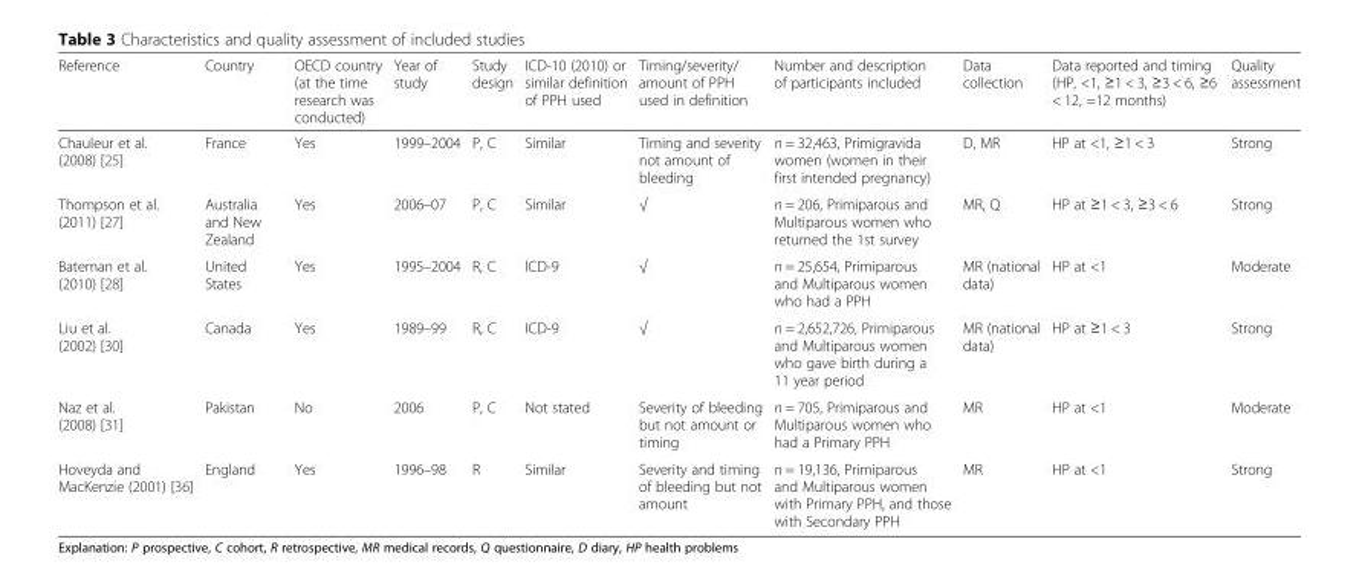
<table><thead><tr><td>Reference</td><td>Country</td><td>OECD country (at the time research was conducted)</td><td>Year of study</td><td>Study design</td><td>ICD-10 (2010) or similar definition of PPH used</td><td>Timing/severity/ amount of PPH used in definition</td><td>Number and description of participants included</td><td>Data collection</td><td>Data reported and timing (HP, &lt;1, ≥1 &lt; 3, ≥3 &lt; 6, ≥6 &lt; 12, =12 months)</td><td>Quality assessment</td></tr></thead><tbody><tr><td>Chauleur et al. (2008) [25]</td><td>France</td><td>Yes</td><td>1999–2004</td><td>P, C</td><td>Similar</td><td>Timing and severity not amount of bleeding</td><td>n = 32,463, Primigravida women (women in their first intended pregnancy)</td><td>D, MR</td><td>HP at &lt;1, ≥1 &lt; 3</td><td>Strong</td></tr><tr><td>Thompson et al. (2011) [27]</td><td>Australia and New Zealand</td><td>Yes</td><td>2006–07</td><td>P, C</td><td>Similar</td><td>√</td><td>n = 206, Primiparous and Multiparous women who returned the 1st survey</td><td>MR, Q</td><td>HP at ≥1 &lt; 3, ≥3 &lt; 6</td><td>Strong</td></tr><tr><td>Bateman et al. (2010) [28]</td><td>United States</td><td>Yes</td><td>1995–2004</td><td>R, C</td><td>ICD-9</td><td>√</td><td>n = 25,654, Primiparous and Multiparous women who had a PPH</td><td>MR (national data)</td><td>HP at &lt;1</td><td>Moderate</td></tr><tr><td>Liu et al. (2002) [30]</td><td>Canada</td><td>Yes</td><td>1989–99</td><td>R, C</td><td>ICD-9</td><td>√</td><td>n = 2,652,726, Primiparous and Multiparous women who gave birth during a 11 year period</td><td>MR (national data)</td><td>HP at ≥1 &lt; 3</td><td>Strong</td></tr><tr><td>Naz et al. (2008) [31]</td><td>Pakistan</td><td>No</td><td>2006</td><td>P, C</td><td>Not stated</td><td>Severity of bleeding but not amount or timing</td><td>n = 705, Primiparous and Multiparous women who had a Primary PPH</td><td>MR</td><td>HP at &lt;1</td><td>Moderate</td></tr><tr><td>Hoveyda and MacKenzie (2001) [36]</td><td>England</td><td>Yes</td><td>1996–98</td><td>R</td><td>Similar</td><td>Severity and timing of bleeding but not amount</td><td>n = 19,136, Primiparous and Multiparous women with Primary PPH, and those with Secondary PPH</td><td>MR</td><td>HP at &lt;1</td><td>Strong</td></tr></tbody></table>